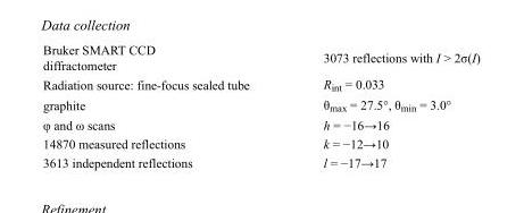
<table><tbody><tr><td>Bruker SMART CCD diffractometer</td><td>3073 reflections with I &gt; 2σ(I)</td></tr><tr><td>Radiation source: fine-focus sealed tube</td><td>R<sub>int</sub> = 0.033</td></tr><tr><td>graphite</td><td>θ<sub>max</sub> = 27.5°, θ<sub>min</sub> = 3.0°</td></tr><tr><td>φ and ω scans</td><td>h = −16→16</td></tr><tr><td>14870 measured reflections</td><td>k = −12→10</td></tr><tr><td>3613 independent reflections</td><td>l = −17→17</td></tr></tbody></table>